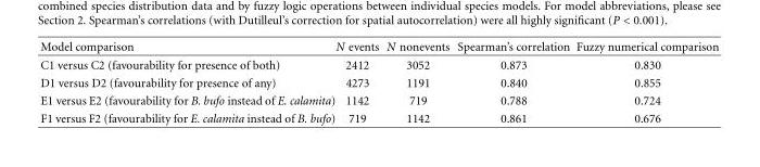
<table><thead><tr><td>Model comparison</td><td>N events</td><td>N nonevents</td><td>Spearman’s correlation</td><td>Fuzzy numerical comparison</td></tr></thead><tbody><tr><td>C1 versus C2 (favourability for presence of both)</td><td>2412</td><td>3052</td><td>0.873</td><td>0.830</td></tr><tr><td>D1 versus D2 (favourability for presence of any)</td><td>4273</td><td>1191</td><td>0.840</td><td>0.855</td></tr><tr><td>E1 versus E2 (favourability for B. bufo instead of E. calamita)</td><td>1142</td><td>719</td><td>0.788</td><td>0.724</td></tr><tr><td>F1 versus F2 (favourability for E. calamita instead of B. bufo)</td><td>719</td><td>1142</td><td>0.861</td><td>0.676</td></tr></tbody></table>